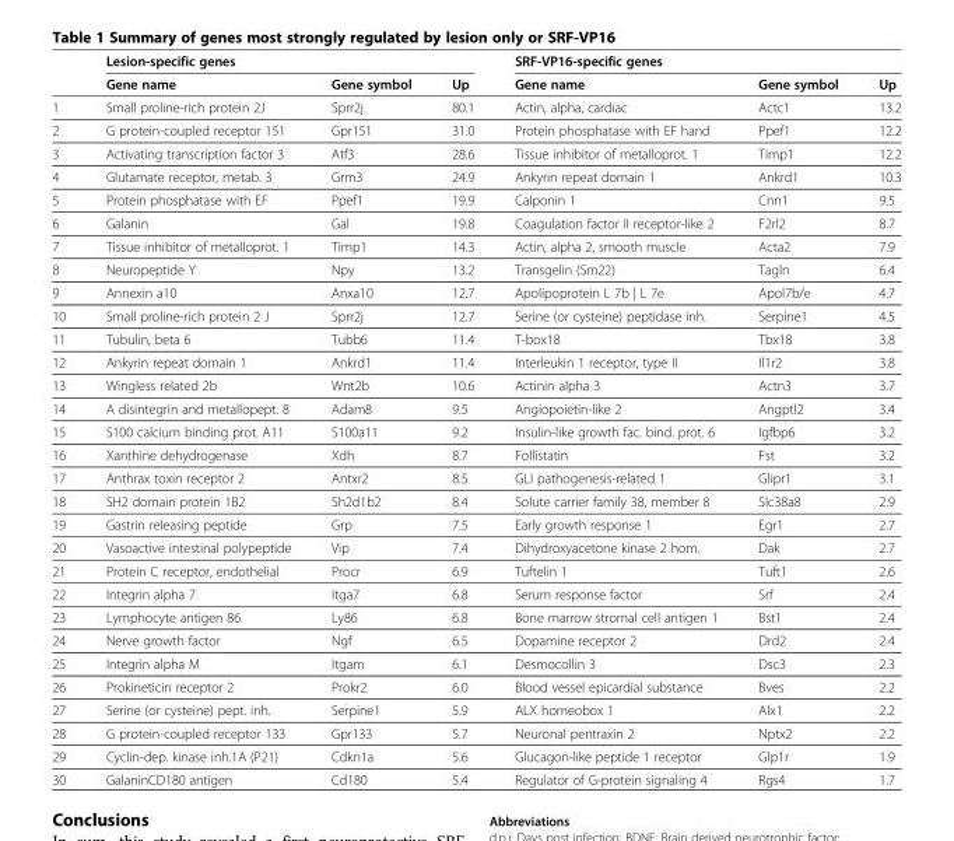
<table><thead><tr><td rowspan="2"></td><td colspan="3">Lesion-specific genes</td><td colspan="3">SRF-VP16-specific genes</td></tr><tr><td>Gene name</td><td>Gene symbol</td><td>Up</td><td>Gene name</td><td>Gene symbol</td><td>Up</td></tr></thead><tbody><tr><td>1</td><td>Small proline-rich protein 2J</td><td>Sprr2j</td><td>80.1</td><td>Actin, alpha, cardiac</td><td>Actc1</td><td>13.2</td></tr><tr><td>2</td><td>G protein-coupled receptor 151</td><td>Gpr151</td><td>31.0</td><td>Protein phosphatase with EF hand</td><td>Ppef1</td><td>12.2</td></tr><tr><td>3</td><td>Activating transcription factor 3</td><td>Atf3</td><td>28.6</td><td>Tissue inhibitor of metalloprot. 1</td><td>Timp1</td><td>12.2</td></tr><tr><td>4</td><td>Glutamate receptor, metab. 3</td><td>Grm3</td><td>24.9</td><td>Ankyrin repeat domain 1</td><td>Ankrd1</td><td>10.3</td></tr><tr><td>5</td><td>Protein phosphatase with EF</td><td>Ppef1</td><td>19.9</td><td>Calponin 1</td><td>Cnn1</td><td>9.5</td></tr><tr><td>6</td><td>Galanin</td><td>Gal</td><td>19.8</td><td>Coagulation factor II receptor-like 2</td><td>F2rl2</td><td>8.7</td></tr><tr><td>7</td><td>Tissue inhibitor of metalloprot. 1</td><td>Timp1</td><td>14.3</td><td>Actin, alpha 2, smooth muscle</td><td>Acta2</td><td>7.9</td></tr><tr><td>8</td><td>Neuropeptide Y</td><td>Npy</td><td>13.2</td><td>Transgelin (Sm22)</td><td>Tagln</td><td>6.4</td></tr><tr><td>9</td><td>Annexin a10</td><td>Anxa10</td><td>12.7</td><td>Apolipoprotein L 7b | L 7e</td><td>Apol7b/e</td><td>4.7</td></tr><tr><td>10</td><td>Small proline-rich protein 2 J</td><td>Sprr2j</td><td>12.7</td><td>Serine (or cysteine) peptidase inh.</td><td>Serpine1</td><td>4.5</td></tr><tr><td>11</td><td>Tubulin, beta 6</td><td>Tubb6</td><td>11.4</td><td>T-box18</td><td>Tbx18</td><td>3.8</td></tr><tr><td>12</td><td>Ankyrin repeat domain 1</td><td>Ankrd1</td><td>11.4</td><td>Interleukin 1 receptor, type II</td><td>Il1r2</td><td>3.8</td></tr><tr><td>13</td><td>Wingless related 2b</td><td>Wnt2b</td><td>10.6</td><td>Actinin alpha 3</td><td>Actn3</td><td>3.7</td></tr><tr><td>14</td><td>A disintegrin and metallopept. 8</td><td>Adam8</td><td>9.5</td><td>Angiopoietin-like 2</td><td>Angptl2</td><td>3.4</td></tr><tr><td>15</td><td>S100 calcium binding prot. A11</td><td>S100a11</td><td>9.2</td><td>Insulin-like growth fac. bind. prot. 6</td><td>Igfbp6</td><td>3.2</td></tr><tr><td>16</td><td>Xanthine dehydrogenase</td><td>Xdh</td><td>8.7</td><td>Follistatin</td><td>Fst</td><td>3.2</td></tr><tr><td>17</td><td>Anthrax toxin receptor 2</td><td>Antxr2</td><td>8.5</td><td>GLI pathogenesis-related 1</td><td>Glipr1</td><td>3.1</td></tr><tr><td>18</td><td>SH2 domain protein 1B2</td><td>Sh2d1b2</td><td>8.4</td><td>Solute carrier family 38, member 8</td><td>Slc38a8</td><td>2.9</td></tr><tr><td>19</td><td>Gastrin releasing peptide</td><td>Grp</td><td>7.5</td><td>Early growth response 1</td><td>Egr1</td><td>2.7</td></tr><tr><td>20</td><td>Vasoactive intestinal polypeptide</td><td>Vip</td><td>7.4</td><td>Dihydroxyacetone kinase 2 hom.</td><td>Dak</td><td>2.7</td></tr><tr><td>21</td><td>Protein C receptor, endothelial</td><td>Procr</td><td>6.9</td><td>Tuftelin 1</td><td>Tuft1</td><td>2.6</td></tr><tr><td>22</td><td>Integrin alpha 7</td><td>Itga7</td><td>6.8</td><td>Serum response factor</td><td>Srf</td><td>2.4</td></tr><tr><td>23</td><td>Lymphocyte antigen 86</td><td>Ly86</td><td>6.8</td><td>Bone marrow stromal cell antigen 1</td><td>Bst1</td><td>2.4</td></tr><tr><td>24</td><td>Nerve growth factor</td><td>Ngf</td><td>6.5</td><td>Dopamine receptor 2</td><td>Drd2</td><td>2.4</td></tr><tr><td>25</td><td>Integrin alpha M</td><td>Itgam</td><td>6.1</td><td>Desmocollin 3</td><td>Dsc3</td><td>2.3</td></tr><tr><td>26</td><td>Prokineticin receptor 2</td><td>Prokr2</td><td>6.0</td><td>Blood vessel epicardial substance</td><td>Bves</td><td>2.2</td></tr><tr><td>27</td><td>Serine (or cysteine) pept. inh.</td><td>Serpine1</td><td>5.9</td><td>ALX homeobox 1</td><td>Alx1</td><td>2.2</td></tr><tr><td>28</td><td>G protein-coupled receptor 133</td><td>Gpr133</td><td>5.7</td><td>Neuronal pentraxin 2</td><td>Nptx2</td><td>2.2</td></tr><tr><td>29</td><td>Cyclin-dep. kinase inh.1A (P21)</td><td>Cdkn1a</td><td>5.6</td><td>Glucagon-like peptide 1 receptor</td><td>Glp1r</td><td>1.9</td></tr><tr><td>30</td><td>GalaninCD180 antigen</td><td>Cd180</td><td>5.4</td><td>Regulator of G-protein signaling 4</td><td>Rgs4</td><td>1.7</td></tr></tbody></table>